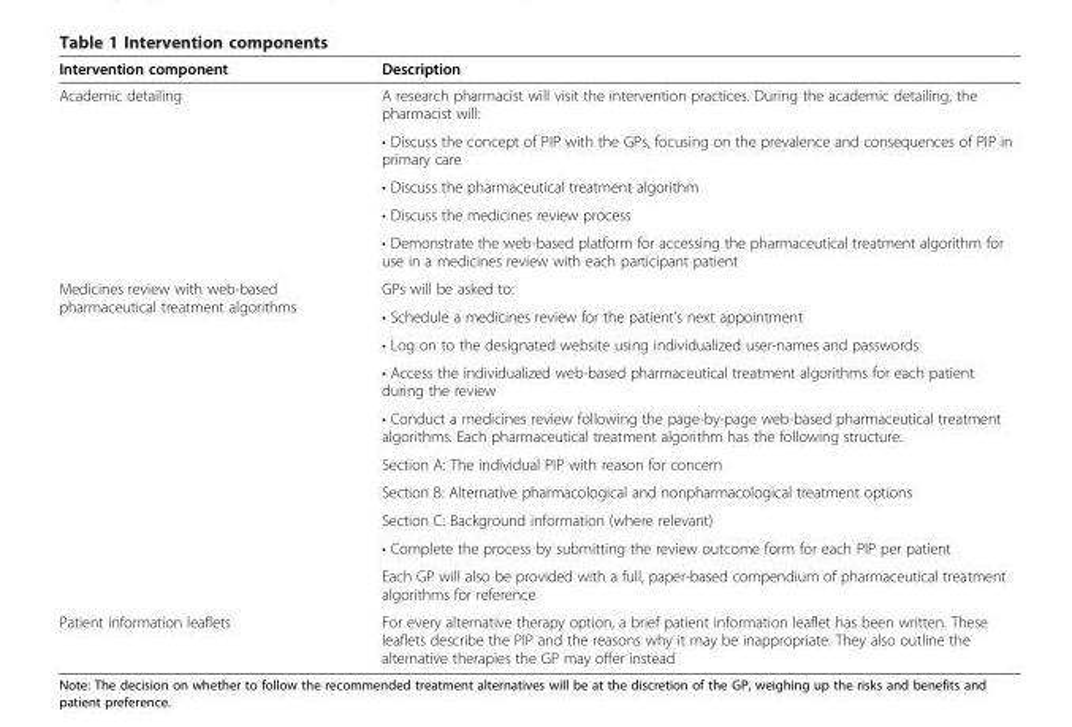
<table><thead><tr><td>Intervention component</td><td>Description</td></tr></thead><tbody><tr><td rowspan="5">Academic detailing</td><td>A research pharmacist will visit the intervention practices. During the academic detailing, the pharmacist will:</td></tr><tr><td>• Discuss the concept of PIP with the GPs, focusing on the prevalence and consequences of PIP in primary care</td></tr><tr><td>• Discuss the pharmaceutical treatment algorithm</td></tr><tr><td>• Discuss the medicines review process</td></tr><tr><td>• Demonstrate the web-based platform for accessing the pharmaceutical treatment algorithm for use in a medicines review with each participant patient</td></tr><tr><td rowspan="10">Medicines review with web-based pharmaceutical treatment algorithms</td><td>GPs will be asked to:</td></tr><tr><td>• Schedule a medicines review for the patient’s next appointment</td></tr><tr><td>• Log on to the designated website using individualized user-names and passwords</td></tr><tr><td>• Access the individualized web-based pharmaceutical treatment algorithms for each patient during the review</td></tr><tr><td>• Conduct a medicines review following the page-by-page web-based pharmaceutical treatment algorithms. Each pharmaceutical treatment algorithm has the following structure:</td></tr><tr><td>Section A: The individual PIP with reason for concern</td></tr><tr><td>Section B: Alternative pharmacological and nonpharmacological treatment options</td></tr><tr><td>Section C: Background information (where relevant)</td></tr><tr><td>• Complete the process by submitting the review outcome form for each PIP per patient</td></tr><tr><td>Each GP will also be provided with a full, paper-based compendium of pharmaceutical treatment algorithms for reference</td></tr><tr><td>Patient information leaflets</td><td>For every alternative therapy option, a brief patient information leaflet has been written. These leaflets describe the PIP and the reasons why it may be inappropriate. They also outline the alternative therapies the GP may offer instead</td></tr></tbody></table>